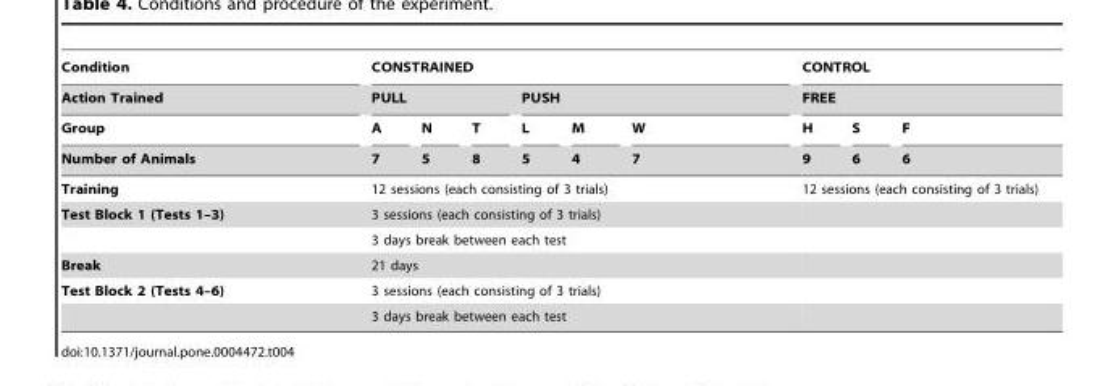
<table><thead><tr><td rowspan="4">Condition Action Trained Group Number of Animals</td><td colspan="6">CONSTRAINED</td><td rowspan="2" colspan="3">CONTROL FREE</td></tr><tr><td colspan="3">PULL</td><td colspan="3">PUSH</td></tr><tr><td rowspan="2">A 7</td><td rowspan="2">N 5</td><td rowspan="2">T 8</td><td rowspan="2">L 5</td><td rowspan="2">M 4</td><td rowspan="2">W 7</td><td rowspan="2">H 9</td><td rowspan="2">S 6</td><td rowspan="2">F 6</td></tr><tr></tr></thead><tbody><tr><td>Training</td><td colspan="6">12 sessions (each consisting of 3 trials)</td><td colspan="3">12 sessions (each consisting of 3 trials)</td></tr><tr><td rowspan="2">Test Block 1 (Tests 1–3)</td><td colspan="6">3 sessions (each consisting of 3 trials)</td><td colspan="3"></td></tr><tr><td colspan="6">3 days break between each test</td><td colspan="3"></td></tr><tr><td>Break</td><td colspan="6">21 days</td><td colspan="3"></td></tr><tr><td rowspan="2">Test Block 2 (Tests 4–6)</td><td colspan="6">3 sessions (each consisting of 3 trials)</td><td colspan="3"></td></tr><tr><td colspan="6">3 days break between each test</td><td colspan="3"></td></tr></tbody></table>